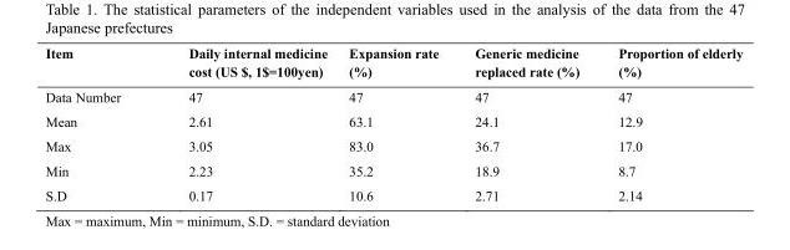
<table><thead><tr><td>Item</td><td>Daily internal medicine cost (US $, 1$=100yen)</td><td>Expansion rate (%)</td><td>Generic medicine replaced rate (%)</td><td>Proportion of elderly (%)</td></tr></thead><tbody><tr><td>Data Number</td><td>47</td><td>47</td><td>47</td><td>47</td></tr><tr><td>Mean</td><td>2.61</td><td>63.1</td><td>24.1</td><td>12.9</td></tr><tr><td>Max</td><td>3.05</td><td>83.0</td><td>36.7</td><td>17.0</td></tr><tr><td>Min</td><td>2.23</td><td>35.2</td><td>18.9</td><td>8.7</td></tr><tr><td>S.D</td><td>0.17</td><td>10.6</td><td>2.71</td><td>2.14</td></tr></tbody></table>